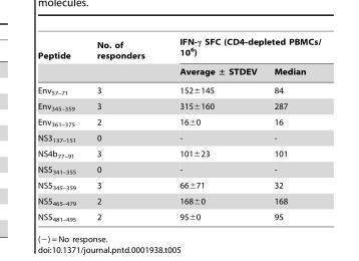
<table><thead><tr><td rowspan="2">Peptide</td><td rowspan="2">No. of responders</td><td colspan="2">IFN-γ SFC (CD4-depleted PBMCs/ 10<sup>6</sup>)</td></tr><tr><td>Average ± STDEV</td><td>Median</td></tr></thead><tbody><tr><td>Env<sub>57–71</sub></td><td>3</td><td>152±145</td><td>84</td></tr><tr><td>Env<sub>345–359</sub></td><td>3</td><td>315±160</td><td>287</td></tr><tr><td>Env<sub>361–375</sub></td><td>2</td><td>16±0</td><td>16</td></tr><tr><td>NS3<sub>137–151</sub></td><td>0</td><td>-</td><td>-</td></tr><tr><td>NS4b<sub>77–91</sub></td><td>3</td><td>101±23</td><td>101</td></tr><tr><td>NS5<sub>341–355</sub></td><td>0</td><td>-</td><td>-</td></tr><tr><td>NS5<sub>345–359</sub></td><td>3</td><td>66±71</td><td>32</td></tr><tr><td>NS5<sub>465–479</sub></td><td>2</td><td>168±0</td><td>168</td></tr><tr><td>NS5<sub>481–495</sub></td><td>2</td><td>95±0</td><td>95</td></tr></tbody></table>